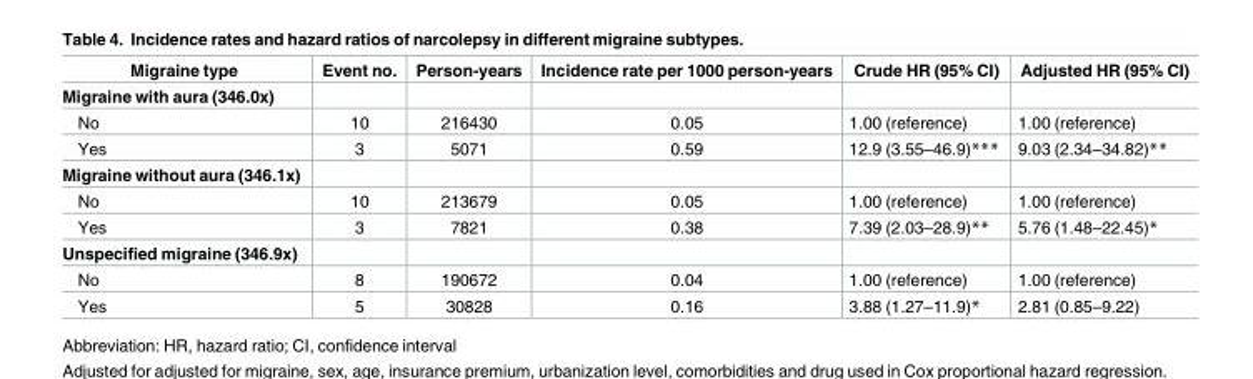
<table><thead><tr><td>Migraine type</td><td>Event no.</td><td>Person-years</td><td>Incidence rate per 1000 person-years</td><td>Crude HR (95% CI)</td><td>Adjusted HR (95% CI)</td></tr></thead><tbody><tr><td colspan="6">Migraine with aura (346.0x)</td></tr><tr><td>No</td><td>10</td><td>216430</td><td>0.05</td><td>1.00 (reference)</td><td>1.00 (reference)</td></tr><tr><td>Yes</td><td>3</td><td>5071</td><td>0.59</td><td>12.9 (3.55–46.9)***</td><td>9.03 (2.34–34.82)**</td></tr><tr><td colspan="6">Migraine without aura (346.1x)</td></tr><tr><td>No</td><td>10</td><td>213679</td><td>0.05</td><td>1.00 (reference)</td><td>1.00 (reference)</td></tr><tr><td>Yes</td><td>3</td><td>7821</td><td>0.38</td><td>7.39 (2.03–28.9)**</td><td>5.76 (1.48–22.45)*</td></tr><tr><td colspan="6">Unspecified migraine (346.9x)</td></tr><tr><td>No</td><td>8</td><td>190672</td><td>0.04</td><td>1.00 (reference)</td><td>1.00 (reference)</td></tr><tr><td>Yes</td><td>5</td><td>30828</td><td>0.16</td><td>3.88 (1.27–11.9)*</td><td>2.81 (0.85–9.22)</td></tr></tbody></table>